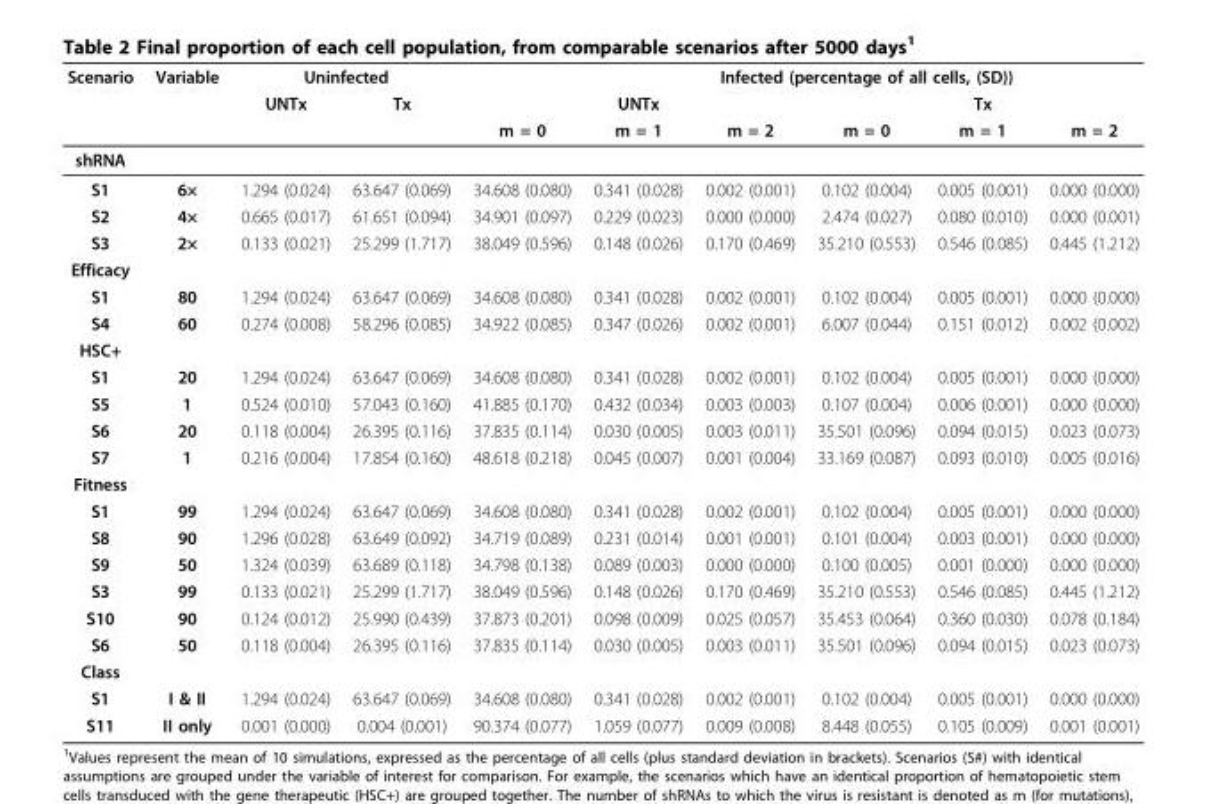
<table><thead><tr><td rowspan="3">Scenario</td><td rowspan="3">Variable</td><td colspan="2">Uninfected</td><td rowspan="3">m = 0</td><td colspan="5">Infected (percentage of all cells, (SD))</td></tr><tr><td rowspan="2">UNTx</td><td rowspan="2">Tx</td><td rowspan="2">UNTx m = 1</td><td rowspan="2">m = 2</td><td rowspan="2">m = 0</td><td rowspan="2">Tx m = 1</td><td rowspan="2">m = 2</td></tr><tr></tr></thead><tbody><tr><td colspan="10">shRNA</td></tr><tr><td>S1</td><td>6×</td><td>1.294 (0.024)</td><td>63.647 (0.069)</td><td>34.608 (0.080)</td><td>0.341 (0.028)</td><td>0.002 (0.001)</td><td>0.102 (0.004)</td><td>0.005 (0.001)</td><td>0.000 (0.000)</td></tr><tr><td>S2</td><td>4×</td><td>0.665 (0.017)</td><td>61.651 (0.094)</td><td>34.901 (0.097)</td><td>0.229 (0.023)</td><td>0.000 (0.000)</td><td>2.474 (0.027)</td><td>0.080 (0.010)</td><td>0.000 (0.001)</td></tr><tr><td>S3</td><td>2×</td><td>0.133 (0.021)</td><td>25.299 (1.717)</td><td>38.049 (0.596)</td><td>0.148 (0.026)</td><td>0.170 (0.469)</td><td>35.210 (0.553)</td><td>0.546 (0.085)</td><td>0.445 (1.212)</td></tr><tr><td colspan="10">Efficacy</td></tr><tr><td>S1</td><td>80</td><td>1.294 (0.024)</td><td>63.647 (0.069)</td><td>34.608 (0.080)</td><td>0.341 (0.028)</td><td>0.002 (0.001)</td><td>0.102 (0.004)</td><td>0.005 (0.001)</td><td>0.000 (0.000)</td></tr><tr><td>S4</td><td>60</td><td>0.274 (0.008)</td><td>58.296 (0.085)</td><td>34.922 (0.085)</td><td>0.347 (0.026)</td><td>0.002 (0.001)</td><td>6.007 (0.044)</td><td>0.151 (0.012)</td><td>0.002 (0.002)</td></tr><tr><td colspan="10">HSC+</td></tr><tr><td>S1</td><td>20</td><td>1.294 (0.024)</td><td>63.647 (0.069)</td><td>34.608 (0.080)</td><td>0.341 (0.028)</td><td>0.002 (0.001)</td><td>0.102 (0.004)</td><td>0.005 (0.001)</td><td>0.000 (0.000)</td></tr><tr><td>S5</td><td>1</td><td>0.524 (0.010)</td><td>57.043 (0.160)</td><td>41.885 (0.170)</td><td>0.432 (0.034)</td><td>0.003 (0.003)</td><td>0.107 (0.004)</td><td>0.006 (0.001)</td><td>0.000 (0.000)</td></tr><tr><td>S6</td><td>20</td><td>0.118 (0.004)</td><td>26.395 (0.116)</td><td>37.835 (0.114)</td><td>0.030 (0.005)</td><td>0.003 (0.011)</td><td>35.501 (0.096)</td><td>0.094 (0.015)</td><td>0.023 (0.073)</td></tr><tr><td>S7</td><td>1</td><td>0.216 (0.004)</td><td>17.854 (0.160)</td><td>48.618 (0.218)</td><td>0.045 (0.007)</td><td>0.001 (0.004)</td><td>33.169 (0.087)</td><td>0.093 (0.010)</td><td>0.005 (0.016)</td></tr><tr><td colspan="10">Fitness</td></tr><tr><td>S1</td><td>99</td><td>1.294 (0.024)</td><td>63.647 (0.069)</td><td>34.608 (0.080)</td><td>0.341 (0.028)</td><td>0.002 (0.001)</td><td>0.102 (0.004)</td><td>0.005 (0.001)</td><td>0.000 (0.000)</td></tr><tr><td>S8</td><td>90</td><td>1.296 (0.028)</td><td>63.649 (0.092)</td><td>34.719 (0.089)</td><td>0.231 (0.014)</td><td>0.001 (0.001)</td><td>0.101 (0.004)</td><td>0.003 (0.001)</td><td>0.000 (0.000)</td></tr><tr><td>S9</td><td>50</td><td>1.324 (0.039)</td><td>63.689 (0.118)</td><td>34.798 (0.138)</td><td>0.089 (0.003)</td><td>0.000 (0.000)</td><td>0.100 (0.005)</td><td>0.001 (0.000)</td><td>0.000 (0.000)</td></tr><tr><td>S3</td><td>99</td><td>0.133 (0.021)</td><td>25.299 (1.717)</td><td>38.049 (0.596)</td><td>0.148 (0.026)</td><td>0.170 (0.469)</td><td>35.210 (0.553)</td><td>0.546 (0.085)</td><td>0.445 (1.212)</td></tr><tr><td>S10</td><td>90</td><td>0.124 (0.012)</td><td>25.990 (0.439)</td><td>37.873 (0.201)</td><td>0.098 (0.009)</td><td>0.025 (0.057)</td><td>35.453 (0.064)</td><td>0.360 (0.030)</td><td>0.078 (0.184)</td></tr><tr><td>S6</td><td>50</td><td>0.118 (0.004)</td><td>26.395 (0.116)</td><td>37.835 (0.114)</td><td>0.030 (0.005)</td><td>0.003 (0.011)</td><td>35.501 (0.096)</td><td>0.094 (0.015)</td><td>0.023 (0.073)</td></tr><tr><td colspan="10">Class</td></tr><tr><td>S1</td><td>I &amp; II</td><td>1.294 (0.024)</td><td>63.647 (0.069)</td><td>34.608 (0.080)</td><td>0.341 (0.028)</td><td>0.002 (0.001)</td><td>0.102 (0.004)</td><td>0.005 (0.001)</td><td>0.000 (0.000)</td></tr><tr><td>S11</td><td>II only</td><td>0.001 (0.000)</td><td>0.004 (0.001)</td><td>90.374 (0.077)</td><td>1.059 (0.077)</td><td>0.009 (0.008)</td><td>8.448 (0.055)</td><td>0.105 (0.009)</td><td>0.001 (0.001)</td></tr></tbody></table>